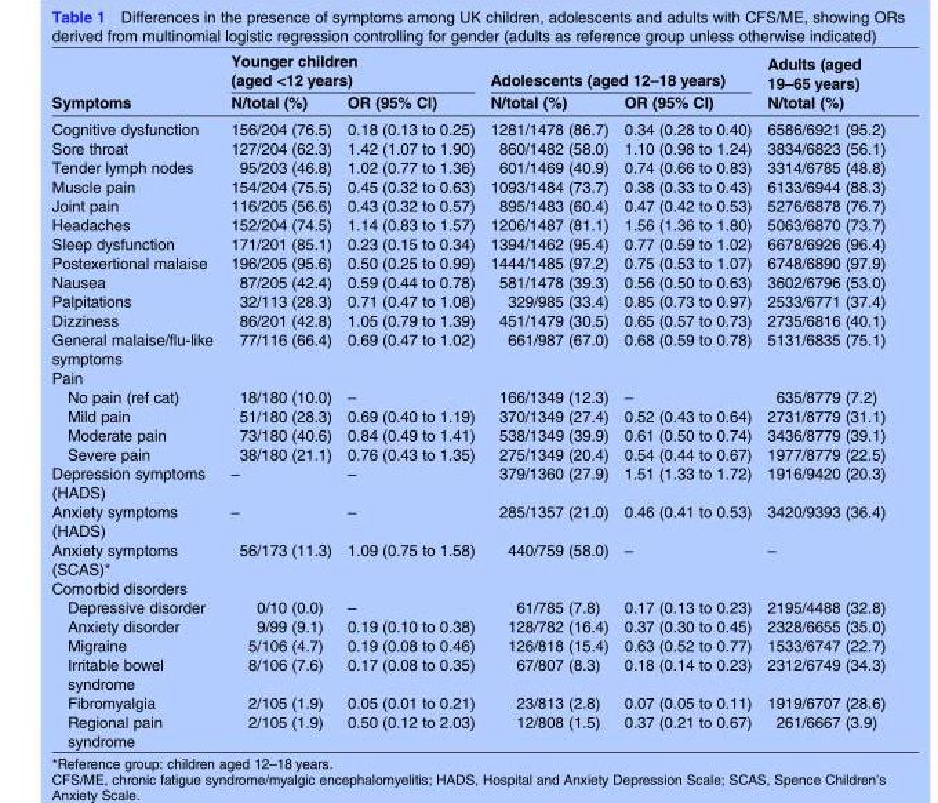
<table><thead><tr><td rowspan="2">Symptoms</td><td colspan="2">Younger children (aged &lt;12 years)</td><td colspan="2">Adolescents (aged 12–18 years)</td><td rowspan="2">Adults (aged 19–65 years) N/total (%)</td></tr><tr><td>N/total (%)</td><td>OR (95% CI)</td><td>N/total (%)</td><td>OR (95% CI)</td></tr></thead><tbody><tr><td>Cognitive dysfunction</td><td>156/204 (76.5)</td><td>0.18 (0.13 to 0.25)</td><td>1281/1478 (86.7)</td><td>0.34 (0.28 to 0.40)</td><td>6586/6921 (95.2)</td></tr><tr><td>Sore throat</td><td>127/204 (62.3)</td><td>1.42 (1.07 to 1.90)</td><td>860/1482 (58.0)</td><td>1.10 (0.98 to 1.24)</td><td>3834/6823 (56.1)</td></tr><tr><td>Tender lymph nodes</td><td>95/203 (46.8)</td><td>1.02 (0.77 to 1.36)</td><td>601/1469 (40.9)</td><td>0.74 (0.66 to 0.83)</td><td>3314/6785 (48.8)</td></tr><tr><td>Muscle pain</td><td>154/204 (75.5)</td><td>0.45 (0.32 to 0.63)</td><td>1093/1484 (73.7)</td><td>0.38 (0.33 to 0.43)</td><td>6133/6944 (88.3)</td></tr><tr><td>Joint pain</td><td>116/205 (56.6)</td><td>0.43 (0.32 to 0.57)</td><td>895/1483 (60.4)</td><td>0.47 (0.42 to 0.53)</td><td>5276/6878 (76.7)</td></tr><tr><td>Headaches</td><td>152/204 (74.5)</td><td>1.14 (0.83 to 1.57)</td><td>1206/1487 (81.1)</td><td>1.56 (1.36 to 1.80)</td><td>5063/6870 (73.7)</td></tr><tr><td>Sleep dysfunction</td><td>171/201 (85.1)</td><td>0.23 (0.15 to 0.34)</td><td>1394/1462 (95.4)</td><td>0.77 (0.59 to 1.02)</td><td>6678/6926 (96.4)</td></tr><tr><td>Postexertional malaise</td><td>196/205 (95.6)</td><td>0.50 (0.25 to 0.99)</td><td>1444/1485 (97.2)</td><td>0.75 (0.53 to 1.07)</td><td>6748/6890 (97.9)</td></tr><tr><td>Nausea</td><td>87/205 (42.4)</td><td>0.59 (0.44 to 0.78)</td><td>581/1478 (39.3)</td><td>0.56 (0.50 to 0.63)</td><td>3602/6796 (53.0)</td></tr><tr><td>Palpitations</td><td>32/113 (28.3)</td><td>0.71 (0.47 to 1.08)</td><td>329/985 (33.4)</td><td>0.85 (0.73 to 0.97)</td><td>2533/6771 (37.4)</td></tr><tr><td>Dizziness</td><td>86/201 (42.8)</td><td>1.05 (0.79 to 1.39)</td><td>451/1479 (30.5)</td><td>0.65 (0.57 to 0.73)</td><td>2735/6816 (40.1)</td></tr><tr><td>General malaise/flu-like symptoms</td><td>77/116 (66.4)</td><td>0.69 (0.47 to 1.02)</td><td>661/987 (67.0)</td><td>0.68 (0.59 to 0.78)</td><td>5131/6835 (75.1)</td></tr><tr><td colspan="6">Pain</td></tr><tr><td>No pain (ref cat)</td><td>18/180 (10.0)</td><td>–</td><td>166/1349 (12.3)</td><td>–</td><td>635/8779 (7.2)</td></tr><tr><td>Mild pain</td><td>51/180 (28.3)</td><td>0.69 (0.40 to 1.19)</td><td>370/1349 (27.4)</td><td>0.52 (0.43 to 0.64)</td><td>2731/8779 (31.1)</td></tr><tr><td>Moderate pain</td><td>73/180 (40.6)</td><td>0.84 (0.49 to 1.41)</td><td>538/1349 (39.9)</td><td>0.61 (0.50 to 0.74)</td><td>3436/8779 (39.1)</td></tr><tr><td>Severe pain</td><td>38/180 (21.1)</td><td>0.76 (0.43 to 1.35)</td><td>275/1349 (20.4)</td><td>0.54 (0.44 to 0.67)</td><td>1977/8779 (22.5)</td></tr><tr><td>Depression symptoms (HADS)</td><td>–</td><td>–</td><td>379/1360 (27.9)</td><td>1.51 (1.33 to 1.72)</td><td>1916/9420 (20.3)</td></tr><tr><td>Anxiety symptoms (HADS)</td><td>–</td><td>–</td><td>285/1357 (21.0)</td><td>0.46 (0.41 to 0.53)</td><td>3420/9393 (36.4)</td></tr><tr><td>Anxiety symptoms (SCAS)*</td><td>56/173 (11.3)</td><td>1.09 (0.75 to 1.58)</td><td>440/759 (58.0)</td><td>–</td><td>–</td></tr><tr><td colspan="6">Comorbid disorders</td></tr><tr><td>Depressive disorder</td><td>0/10 (0.0)</td><td>–</td><td>61/785 (7.8)</td><td>0.17 (0.13 to 0.23)</td><td>2195/4488 (32.8)</td></tr><tr><td>Anxiety disorder</td><td>9/99 (9.1)</td><td>0.19 (0.10 to 0.38)</td><td>128/782 (16.4)</td><td>0.37 (0.30 to 0.45)</td><td>2328/6655 (35.0)</td></tr><tr><td>Migraine</td><td>5/106 (4.7)</td><td>0.19 (0.08 to 0.46)</td><td>126/818 (15.4)</td><td>0.63 (0.52 to 0.77)</td><td>1533/6747 (22.7)</td></tr><tr><td>Irritable bowel syndrome</td><td>8/106 (7.6)</td><td>0.17 (0.08 to 0.35)</td><td>67/807 (8.3)</td><td>0.18 (0.14 to 0.23)</td><td>2312/6749 (34.3)</td></tr><tr><td>Fibromyalgia</td><td>2/105 (1.9)</td><td>0.05 (0.01 to 0.21)</td><td>23/813 (2.8)</td><td>0.07 (0.05 to 0.11)</td><td>1919/6707 (28.6)</td></tr><tr><td>Regional pain syndrome</td><td>2/105 (1.9)</td><td>0.50 (0.12 to 2.03)</td><td>12/808 (1.5)</td><td>0.37 (0.21 to 0.67)</td><td>261/6667 (3.9)</td></tr></tbody></table>